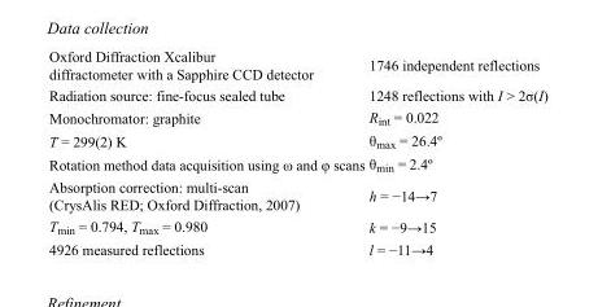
<table><tbody><tr><td>Oxford Diffraction Xcalibur diffractometer with a Sapphire CCD detector</td><td>1746 independent reflections</td></tr><tr><td>Radiation source: fine-focus sealed tube</td><td>1248 reflections with I &gt; 2σ(I)</td></tr><tr><td>Monochromator: graphite</td><td>R<sub>int</sub> = 0.022</td></tr><tr><td>T = 299(2) K</td><td>θ<sub>max</sub> = 26.4º</td></tr><tr><td>Rotation method data acquisition using ω and φ scans</td><td>θ<sub>min</sub> = 2.4º</td></tr><tr><td>Absorption correction: multi-scan (CrysAlis RED; Oxford Diffraction, 2007)</td><td>h = −14→7</td></tr><tr><td>T<sub>min</sub> = 0.794, T<sub>max</sub> = 0.980</td><td>k = −9→15</td></tr><tr><td>4926 measured reflections</td><td>l = −11→4</td></tr></tbody></table>